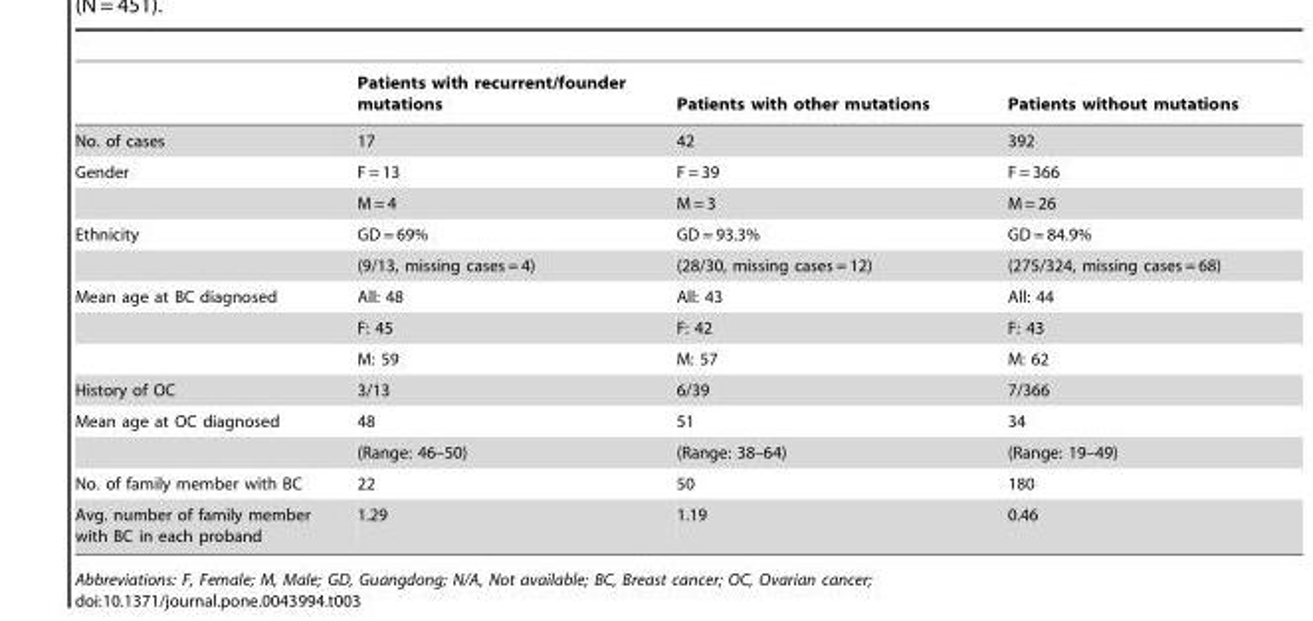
<table><thead><tr><td></td><td>Patients with recurrent/founder mutations</td><td>Patients with other mutations</td><td>Patients without mutations</td></tr></thead><tbody><tr><td>No. of cases</td><td>17</td><td>42</td><td>392</td></tr><tr><td rowspan="2">Gender</td><td>F = 13</td><td>F = 39</td><td>F = 366</td></tr><tr><td>M = 4</td><td>M = 3</td><td>M = 26</td></tr><tr><td rowspan="2">Ethnicity</td><td>GD = 69%</td><td>GD = 93.3%</td><td>GD = 84.9%</td></tr><tr><td>(9/13, missing cases = 4)</td><td>(28/30, missing cases = 12)</td><td>(275/324, missing cases = 68)</td></tr><tr><td rowspan="3">Mean age at BC diagnosed</td><td>All: 48</td><td>All: 43</td><td>All: 44</td></tr><tr><td>F: 45</td><td>F: 42</td><td>F: 43</td></tr><tr><td>M: 59</td><td>M: 57</td><td>M: 62</td></tr><tr><td>History of OC</td><td>3/13</td><td>6/39</td><td>7/366</td></tr><tr><td rowspan="2">Mean age at OC diagnosed</td><td>48</td><td>51</td><td>34</td></tr><tr><td>(Range: 46–50)</td><td>(Range: 38–64)</td><td>(Range: 19–49)</td></tr><tr><td>No. of family member with BC</td><td>22</td><td>50</td><td>180</td></tr><tr><td>Avg. number of family member with BC in each proband</td><td>1.29</td><td>1.19</td><td>0.46</td></tr></tbody></table>